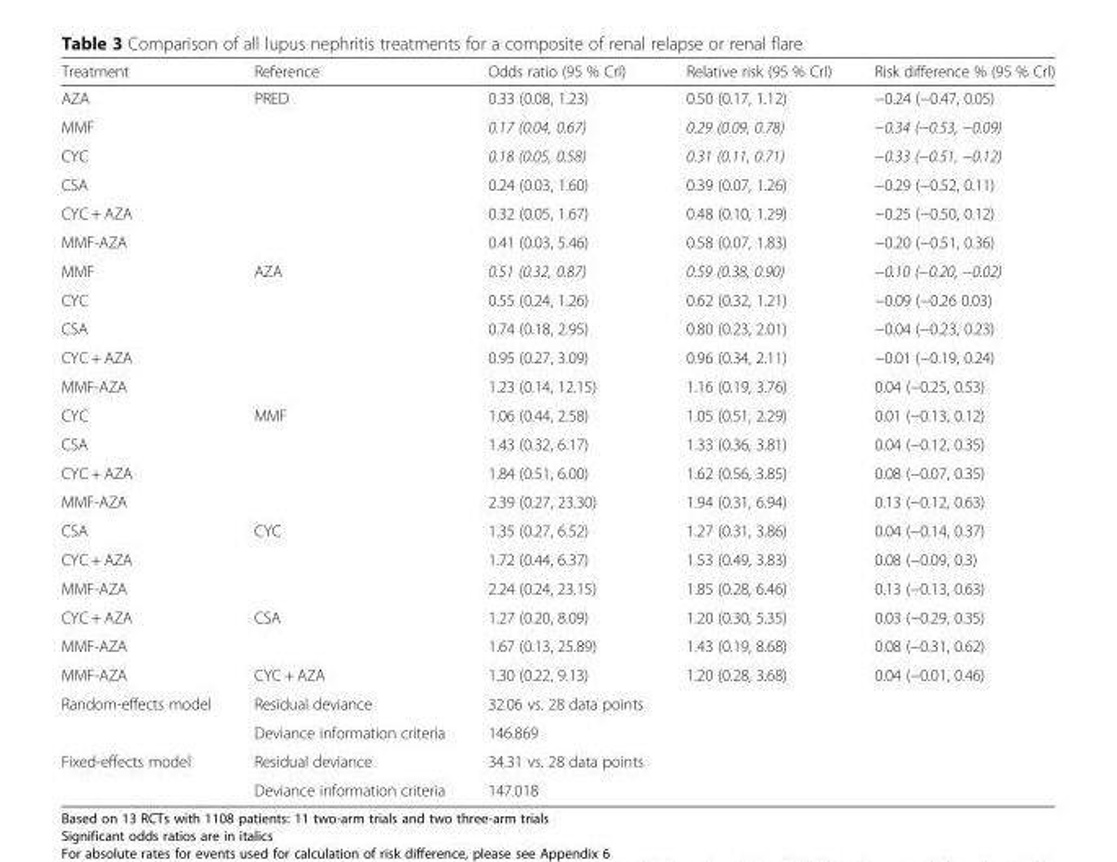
<table><thead><tr><td>Treatment</td><td>Reference</td><td>Odds ratio (95 % CrI)</td><td>Relative risk (95 % CrI)</td><td>Risk difference % (95 % Crl)</td></tr></thead><tbody><tr><td>AZA</td><td>PRED</td><td>0.33 (0.08, 1.23)</td><td>0.50 (0.17, 1.12)</td><td>−0.24 (−0.47, 0.05)</td></tr><tr><td>MMF</td><td></td><td>0.17 (0.04, 0.67)</td><td>0.29 (0.09, 0.78)</td><td>−0.34 (−0.53, −0.09)</td></tr><tr><td>CYC</td><td></td><td>0.18 (0.05, 0.58)</td><td>0.31 (0.11, 0.71)</td><td>−0.33 (−0.51, −0.12)</td></tr><tr><td>CSA</td><td></td><td>0.24 (0.03, 1.60)</td><td>0.39 (0.07, 1.26)</td><td>−0.29 (−0.52, 0.11)</td></tr><tr><td>CYC + AZA</td><td></td><td>0.32 (0.05, 1.67)</td><td>0.48 (0.10, 1.29)</td><td>−0.25 (−0.50, 0.12)</td></tr><tr><td>MMF-AZA</td><td></td><td>0.41 (0.03, 5.46)</td><td>0.58 (0.07, 1.83)</td><td>−0.20 (−0.51, 0.36)</td></tr><tr><td>MMF</td><td>AZA</td><td>0.51 (0.32, 0.87)</td><td>0.59 (0.38, 0.90)</td><td>−0.10 (−0.20, −0.02)</td></tr><tr><td>CYC</td><td></td><td>0.55 (0.24, 1.26)</td><td>0.62 (0.32, 1.21)</td><td>−0.09 (−0.26 0.03)</td></tr><tr><td>CSA</td><td></td><td>0.74 (0.18, 2.95)</td><td>0.80 (0.23, 2.01)</td><td>−0.04 (−0.23, 0.23)</td></tr><tr><td>CYC + AZA</td><td></td><td>0.95 (0.27, 3.09)</td><td>0.96 (0.34, 2.11)</td><td>−0.01 (−0.19, 0.24)</td></tr><tr><td>MMF-AZA</td><td></td><td>1.23 (0.14, 12.15)</td><td>1.16 (0.19, 3.76)</td><td>0.04 (−0.25, 0.53)</td></tr><tr><td>CYC</td><td>MMF</td><td>1.06 (0.44, 2.58)</td><td>1.05 (0.51, 2.29)</td><td>0.01 (−0.13, 0.12)</td></tr><tr><td>CSA</td><td></td><td>1.43 (0.32, 6.17)</td><td>1.33 (0.36, 3.81)</td><td>0.04 (−0.12, 0.35)</td></tr><tr><td>CYC + AZA</td><td></td><td>1.84 (0.51, 6.00)</td><td>1.62 (0.56, 3.85)</td><td>0.08 (−0.07, 0.35)</td></tr><tr><td>MMF-AZA</td><td></td><td>2.39 (0.27, 23.30)</td><td>1.94 (0.31, 6.94)</td><td>0.13 (−0.12, 0.63)</td></tr><tr><td>CSA</td><td>CYC</td><td>1.35 (0.27, 6.52)</td><td>1.27 (0.31, 3.86)</td><td>0.04 (−0.14, 0.37)</td></tr><tr><td>CYC + AZA</td><td></td><td>1.72 (0.44, 6.37)</td><td>1.53 (0.49, 3.83)</td><td>0.08 (−0.09, 0.3)</td></tr><tr><td>MMF-AZA</td><td></td><td>2.24 (0.24, 23.15)</td><td>1.85 (0.28, 6.46)</td><td>0.13 (−0.13, 0.63)</td></tr><tr><td>CYC + AZA</td><td>CSA</td><td>1.27 (0.20, 8.09)</td><td>1.20 (0.30, 5.35)</td><td>0.03 (−0.29, 0.35)</td></tr><tr><td>MMF-AZA</td><td></td><td>1.67 (0.13, 25.89)</td><td>1.43 (0.19, 8.68)</td><td>0.08 (−0.31, 0.62)</td></tr><tr><td>MMF-AZA</td><td>CYC + AZA</td><td>1.30 (0.22, 9.13)</td><td>1.20 (0.28, 3.68)</td><td>0.04 (−0.01, 0.46)</td></tr><tr><td rowspan="2">Random-effects model</td><td>Residual deviance</td><td>32.06 vs. 28 data points</td><td></td><td></td></tr><tr><td>Deviance information criteria</td><td>146.869</td><td></td><td></td></tr><tr><td rowspan="2">Fixed-effects model</td><td>Residual deviance</td><td>34.31 vs. 28 data points</td><td></td><td></td></tr><tr><td>Deviance information criteria</td><td>147.018</td><td></td><td></td></tr></tbody></table>